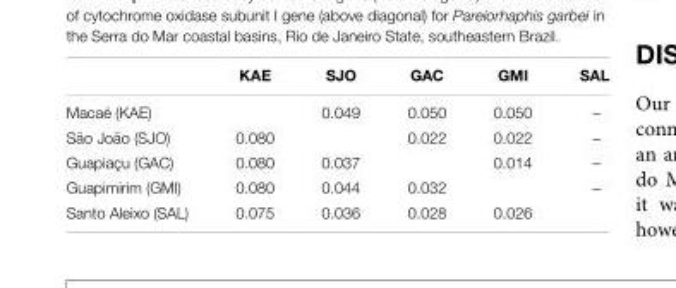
<table><thead><tr><td></td><td>KAE</td><td>SJO</td><td>GAC</td><td>GMI</td><td>SAL</td></tr></thead><tbody><tr><td>Macaé (KAE)</td><td></td><td>0.049</td><td>0.050</td><td>0.050</td><td>–</td></tr><tr><td>São João (SJO)</td><td>0.080</td><td></td><td>0.022</td><td>0.022</td><td>–</td></tr><tr><td>Guapiaçu (GAC)</td><td>0.080</td><td>0.037</td><td></td><td>0.014</td><td>–</td></tr><tr><td>Guapimirim (GMI)</td><td>0.080</td><td>0.044</td><td>0.032</td><td></td><td>–</td></tr><tr><td>Santo Aleixo (SAL)</td><td>0.075</td><td>0.036</td><td>0.028</td><td>0.026</td><td></td></tr></tbody></table>